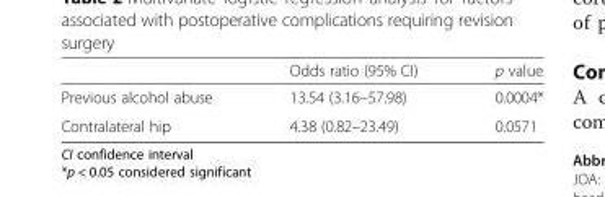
<table><thead><tr><td></td><td>Odds ratio (95% CI)</td><td>p value</td></tr></thead><tbody><tr><td>Previous alcohol abuse</td><td>13.54 (3.16–57.98)</td><td>0.0004*</td></tr><tr><td>Contralateral hip</td><td>4.38 (0.82–23.49)</td><td>0.0571</td></tr></tbody></table>